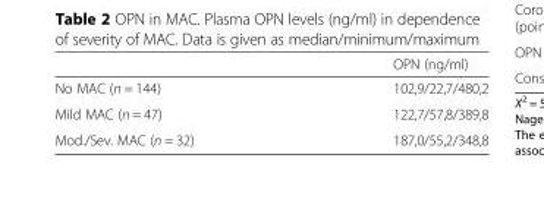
<table><thead><tr><td></td><td>OPN (ng/ml)</td></tr></thead><tbody><tr><td>No MAC (n = 144)</td><td>102,9/22,7/480,2</td></tr><tr><td>Mild MAC (n = 47)</td><td>122,7/57,8/389,8</td></tr><tr><td>Mod./Sev. MAC (n = 32)</td><td>187,0/55,2/348,8</td></tr></tbody></table>